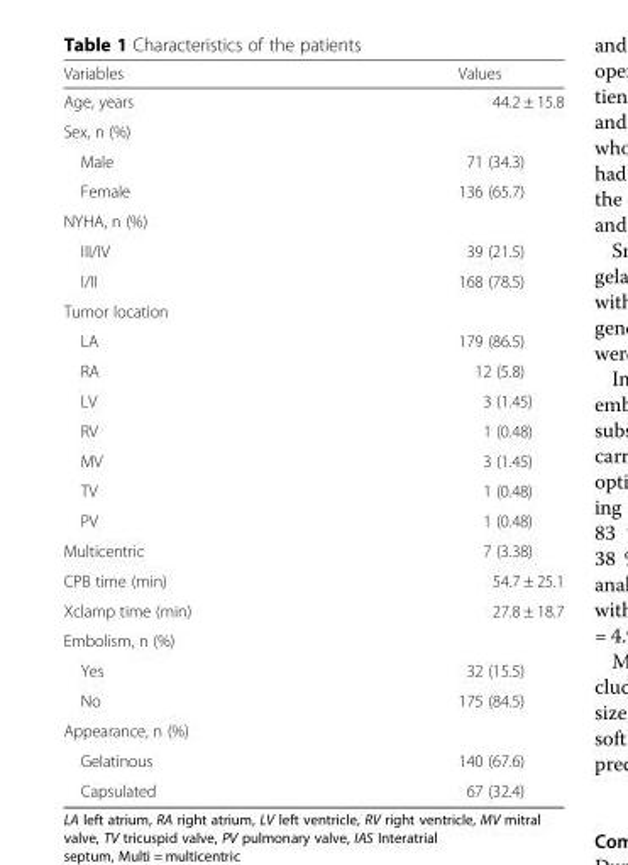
<table><thead><tr><td>Variables</td><td>Values</td></tr></thead><tbody><tr><td>Age, years</td><td>44.2 ± 15.8</td></tr><tr><td colspan="2">Sex, n (%)</td></tr><tr><td>Male</td><td>71 (34.3)</td></tr><tr><td>Female</td><td>136 (65.7)</td></tr><tr><td colspan="2">NYHA, n (%)</td></tr><tr><td>III/IV</td><td>39 (21.5)</td></tr><tr><td>I/II</td><td>168 (78.5)</td></tr><tr><td colspan="2">Tumor location</td></tr><tr><td>LA</td><td>179 (86.5)</td></tr><tr><td>RA</td><td>12 (5.8)</td></tr><tr><td>LV</td><td>3 (1.45)</td></tr><tr><td>RV</td><td>1 (0.48)</td></tr><tr><td>MV</td><td>3 (1.45)</td></tr><tr><td>TV</td><td>1 (0.48)</td></tr><tr><td>PV</td><td>1 (0.48)</td></tr><tr><td>Multicentric</td><td>7 (3.38)</td></tr><tr><td>CPB time (min)</td><td>54.7 ± 25.1</td></tr><tr><td>Xclamp time (min)</td><td>27.8 ± 18.7</td></tr><tr><td colspan="2">Embolism, n (%)</td></tr><tr><td>Yes</td><td>32 (15.5)</td></tr><tr><td>No</td><td>175 (84.5)</td></tr><tr><td colspan="2">Appearance, n (%)</td></tr><tr><td>Gelatinous</td><td>140 (67.6)</td></tr><tr><td>Capsulated</td><td>67 (32.4)</td></tr></tbody></table>